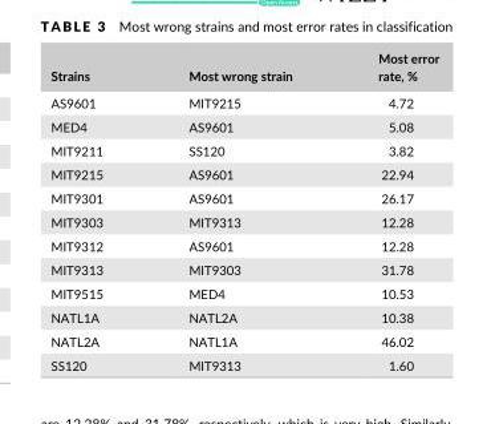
<table><thead><tr><td>Strains</td><td>Most wrong strain</td><td>Most error rate, %</td></tr></thead><tbody><tr><td>AS9601</td><td>MIT9215</td><td>4.72</td></tr><tr><td>MED4</td><td>AS9601</td><td>5.08</td></tr><tr><td>MIT9211</td><td>SS120</td><td>3.82</td></tr><tr><td>MIT9215</td><td>AS9601</td><td>22.94</td></tr><tr><td>MIT9301</td><td>AS9601</td><td>26.17</td></tr><tr><td>MIT9303</td><td>MIT9313</td><td>12.28</td></tr><tr><td>MIT9312</td><td>AS9601</td><td>12.28</td></tr><tr><td>MIT9313</td><td>MIT9303</td><td>31.78</td></tr><tr><td>MIT9515</td><td>MED4</td><td>10.53</td></tr><tr><td>NATL1A</td><td>NATL2A</td><td>10.38</td></tr><tr><td>NATL2A</td><td>NATL1A</td><td>46.02</td></tr><tr><td>SS120</td><td>MIT9313</td><td>1.60</td></tr></tbody></table>